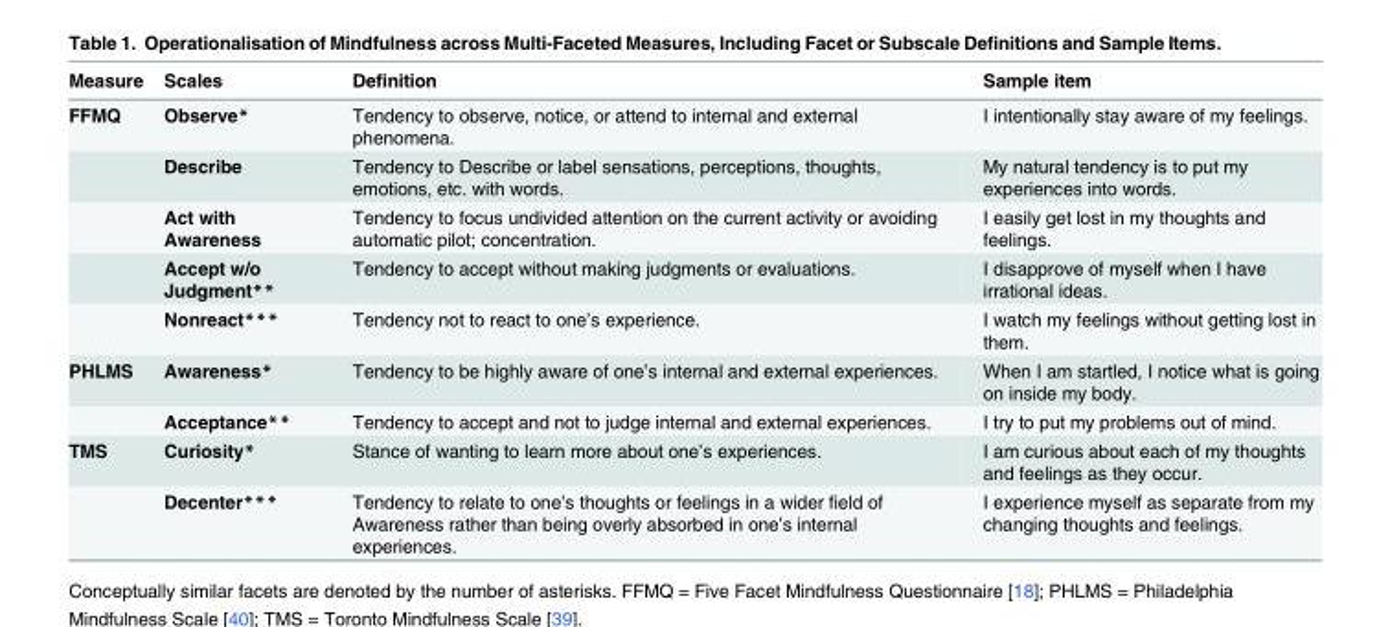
<table><thead><tr><td>Measure</td><td>Scales</td><td>Definition</td><td>Sample item</td></tr></thead><tbody><tr><td rowspan="5">FFMQ</td><td>Observe*</td><td>Tendency to observe, notice, or attend to internal and external phenomena.</td><td>I intentionally stay aware of my feelings.</td></tr><tr><td>Describe</td><td>Tendency to Describe or label sensations, perceptions, thoughts, emotions, etc. with words.</td><td>My natural tendency is to put my experiences into words.</td></tr><tr><td>Act with Awareness</td><td>Tendency to focus undivided attention on the current activity or avoiding automatic pilot; concentration.</td><td>I easily get lost in my thoughts and feelings.</td></tr><tr><td>Accept w/o Judgment**</td><td>Tendency to accept without making judgments or evaluations.</td><td>I disapprove of myself when I have irrational ideas.</td></tr><tr><td>Nonreact***</td><td>Tendency not to react to one’s experience.</td><td>I watch my feelings without getting lost in them.</td></tr><tr><td rowspan="2">PHLMS</td><td>Awareness*</td><td>Tendency to be highly aware of one’s internal and external experiences.</td><td>When I am startled, I notice what is going on inside my body.</td></tr><tr><td>Acceptance**</td><td>Tendency to accept and not to judge internal and external experiences.</td><td>I try to put my problems out of mind.</td></tr><tr><td rowspan="2">TMS</td><td>Curiosity*</td><td>Stance of wanting to learn more about one’s experiences.</td><td>I am curious about each of my thoughts and feelings as they occur.</td></tr><tr><td>Decenter***</td><td>Tendency to relate to one’s thoughts or feelings in a wider field of Awareness rather than being overly absorbed in one’s internal experiences.</td><td>I experience myself as separate from my changing thoughts and feelings.</td></tr></tbody></table>